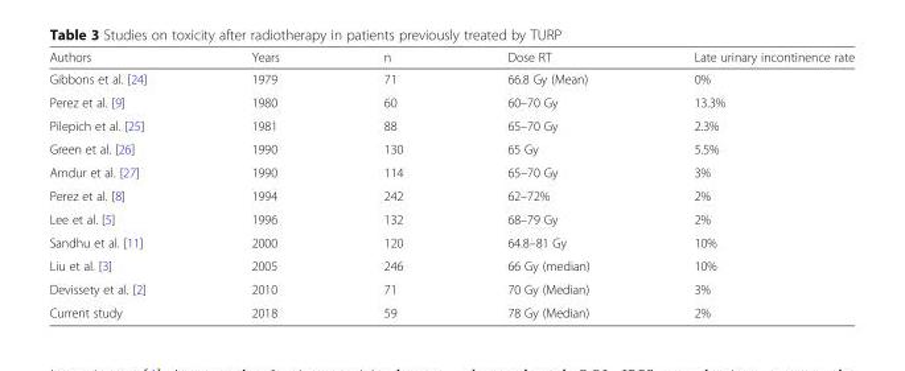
<table><thead><tr><td>Authors</td><td>Years</td><td>n</td><td>Dose RT</td><td>Late urinary incontinence rate</td></tr></thead><tbody><tr><td>Gibbons et al. [24]</td><td>1979</td><td>71</td><td>66.8 Gy (Mean)</td><td>0%</td></tr><tr><td>Perez et al. [9]</td><td>1980</td><td>60</td><td>60–70 Gy</td><td>13.3%</td></tr><tr><td>Pilepich et al. [25]</td><td>1981</td><td>88</td><td>65–70 Gy</td><td>2.3%</td></tr><tr><td>Green et al. [26]</td><td>1990</td><td>130</td><td>65 Gy</td><td>5.5%</td></tr><tr><td>Amdur et al. [27]</td><td>1990</td><td>114</td><td>65–70 Gy</td><td>3%</td></tr><tr><td>Perez et al. [8]</td><td>1994</td><td>242</td><td>62–72%</td><td>2%</td></tr><tr><td>Lee et al. [5]</td><td>1996</td><td>132</td><td>68–79 Gy</td><td>2%</td></tr><tr><td>Sandhu et al. [11]</td><td>2000</td><td>120</td><td>64.8–81 Gy</td><td>10%</td></tr><tr><td>Liu et al. [3]</td><td>2005</td><td>246</td><td>66 Gy (median)</td><td>10%</td></tr><tr><td>Devissety et al. [2]</td><td>2010</td><td>71</td><td>70 Gy (Median)</td><td>3%</td></tr><tr><td>Current study</td><td>2018</td><td>59</td><td>78 Gy (Median)</td><td>2%</td></tr></tbody></table>